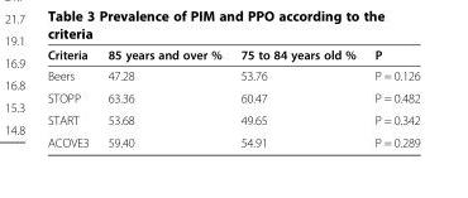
<table><thead><tr><td>Criteria</td><td>85 years and over %</td><td>75 to 84 years old %</td><td>P</td></tr></thead><tbody><tr><td>Beers</td><td>47.28</td><td>53.76</td><td>P = 0.126</td></tr><tr><td>STOPP</td><td>63.36</td><td>60.47</td><td>P = 0.482</td></tr><tr><td>START</td><td>53.68</td><td>49.65</td><td>P = 0.342</td></tr><tr><td>ACOVE3</td><td>59.40</td><td>54.91</td><td>P = 0.289</td></tr></tbody></table>